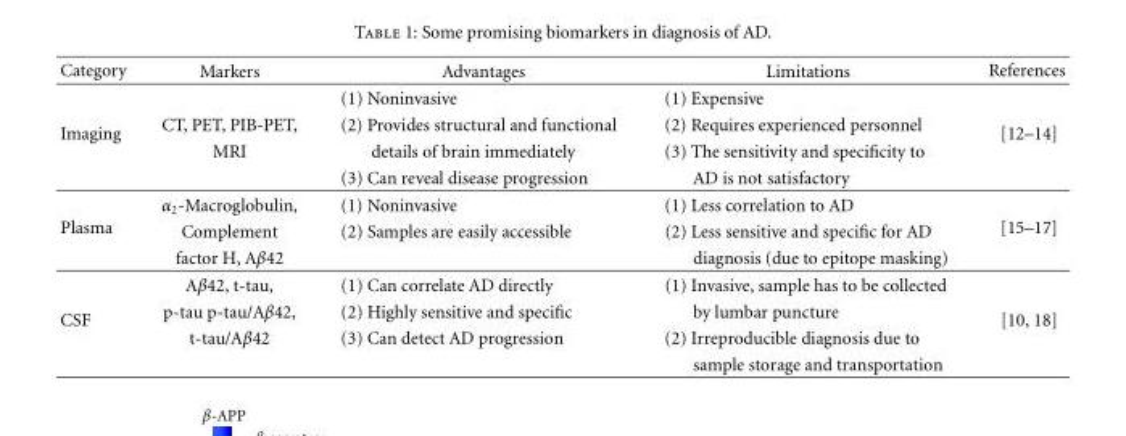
<table><thead><tr><td>Category</td><td>Markers</td><td>Advantages</td><td>Limitations</td><td>References</td></tr></thead><tbody><tr><td rowspan="4">Imaging</td><td></td><td>(1) Noninvasive</td><td>(1) Expensive</td><td rowspan="4">[12–14]</td></tr><tr><td>CT, PET, PIB-PET,</td><td>(2) Provides structural and functional</td><td>(2) Requires experienced personnel</td></tr><tr><td>MRI</td><td>details of brain immediately</td><td>(3) The sensitivity and specificity to</td></tr><tr><td></td><td>(3) Can reveal disease progression</td><td>AD is not satisfactory</td></tr><tr><td rowspan="3">Plasma</td><td>α<sub>2</sub>-Macroglobulin,</td><td>(1) Noninvasive</td><td>(1) Less correlation to AD</td><td rowspan="3">[15–17]</td></tr><tr><td>Complement</td><td>(2) Samples are easily accessible</td><td>(2) Less sensitive and specific for AD</td></tr><tr><td>factor H, Aβ42</td><td></td><td>diagnosis (due to epitope masking)</td></tr><tr><td rowspan="4">CSF</td><td>Aβ42, t-tau,</td><td>(1) Can correlate AD directly</td><td>(1) Invasive, sample has to be collected</td><td rowspan="4">[10, 18]</td></tr><tr><td>p-tau p-tau/Aβ42,</td><td>(2) Highly sensitive and specific</td><td>by lumbar puncture</td></tr><tr><td>t-tau/Aβ42</td><td>(3) Can detect AD progression</td><td>(2) Irreproducible diagnosis due to</td></tr><tr><td></td><td></td><td>sample storage and transportation</td></tr></tbody></table>